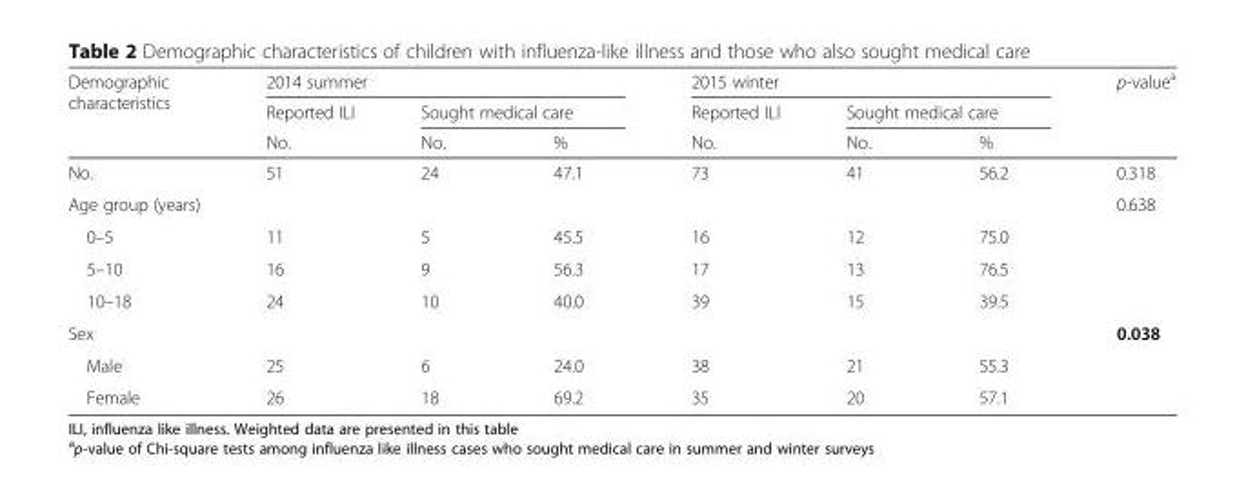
<table><thead><tr><td rowspan="3">Demographic characteristics</td><td colspan="3">2014 summer</td><td colspan="3">2015 winter</td><td rowspan="3">p-value<sup>a</sup></td></tr><tr><td rowspan="2">Reported ILI No.</td><td colspan="2">Sought medical care</td><td rowspan="2">Reported ILI No.</td><td colspan="2">Sought medical care</td></tr><tr><td>No.</td><td>%</td><td>No.</td><td>%</td></tr></thead><tbody><tr><td>No.</td><td>51</td><td>24</td><td>47.1</td><td>73</td><td>41</td><td>56.2</td><td>0.318</td></tr><tr><td>Age group (years)</td><td></td><td></td><td></td><td></td><td></td><td></td><td>0.638</td></tr><tr><td>0–5</td><td>11</td><td>5</td><td>45.5</td><td>16</td><td>12</td><td>75.0</td><td></td></tr><tr><td>5–10</td><td>16</td><td>9</td><td>56.3</td><td>17</td><td>13</td><td>76.5</td><td></td></tr><tr><td>10–18</td><td>24</td><td>10</td><td>40.0</td><td>39</td><td>15</td><td>39.5</td><td></td></tr><tr><td>Sex</td><td></td><td></td><td></td><td></td><td></td><td></td><td>0.038</td></tr><tr><td>Male</td><td>25</td><td>6</td><td>24.0</td><td>38</td><td>21</td><td>55.3</td><td></td></tr><tr><td>Female</td><td>26</td><td>18</td><td>69.2</td><td>35</td><td>20</td><td>57.1</td><td></td></tr></tbody></table>